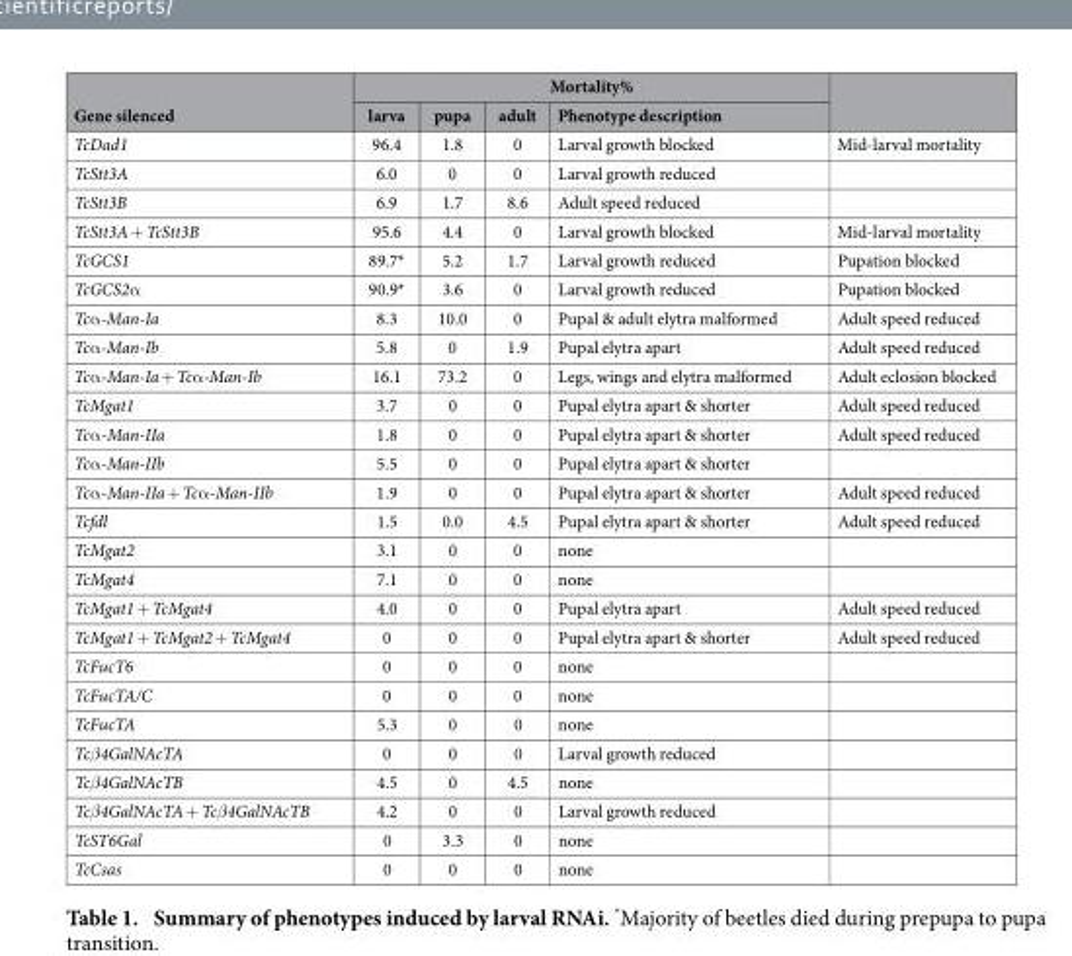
<table><thead><tr><td rowspan="2">Gene silenced</td><td colspan="4">Mortality%</td><td rowspan="2"></td></tr><tr><td>larva</td><td>pupa</td><td>adult</td><td>Phenotype description</td></tr></thead><tbody><tr><td>TcDad1</td><td>96.4</td><td>1.8</td><td>0</td><td>Larval growth blocked</td><td>Mid-larval mortality</td></tr><tr><td>TcStt3A</td><td>6.0</td><td>0</td><td>0</td><td>Larval growth reduced</td><td></td></tr><tr><td>TcStt3B</td><td>6.9</td><td>1.7</td><td>8.6</td><td>Adult speed reduced</td><td></td></tr><tr><td>TcStt3A + TcStt3B</td><td>95.6</td><td>4.4</td><td>0</td><td>Larval growth blocked</td><td>Mid-larval mortality</td></tr><tr><td>TcGCS1</td><td>89.7*</td><td>5.2</td><td>1.7</td><td>Larval growth reduced</td><td>Pupation blocked</td></tr><tr><td>TcGCS2α</td><td>90.9*</td><td>3.6</td><td>0</td><td>Larval growth reduced</td><td>Pupation blocked</td></tr><tr><td>Tcα -Man-Ia</td><td>8.3</td><td>10.0</td><td>0</td><td>Pupal &amp; adult elytra malformed</td><td>Adult speed reduced</td></tr><tr><td>Tcα -Man-Ib</td><td>5.8</td><td>0</td><td>1.9</td><td>Pupal elytra apart</td><td>Adult speed reduced</td></tr><tr><td>Tcα -Man-Ia + Tcα -Man-Ib</td><td>16.1</td><td>73.2</td><td>0</td><td>Legs, wings and elytra malformed</td><td>Adult eclosion blocked</td></tr><tr><td>TcMgat1</td><td>3.7</td><td>0</td><td>0</td><td>Pupal elytra apart &amp; shorter</td><td>Adult speed reduced</td></tr><tr><td>Tcα -Man-IIa</td><td>1.8</td><td>0</td><td>0</td><td>Pupal elytra apart &amp; shorter</td><td>Adult speed reduced</td></tr><tr><td>Tcα -Man-IIb</td><td>5.5</td><td>0</td><td>0</td><td>Pupal elytra apart &amp; shorter</td><td></td></tr><tr><td>Tcα -Man-IIa + Tcα -Man-IIb</td><td>1.9</td><td>0</td><td>0</td><td>Pupal elytra apart &amp; shorter</td><td>Adult speed reduced</td></tr><tr><td>Tcfdl</td><td>1.5</td><td>0.0</td><td>4.5</td><td>Pupal elytra apart &amp; shorter</td><td>Adult speed reduced</td></tr><tr><td>TcMgat2</td><td>3.1</td><td>0</td><td>0</td><td>none</td><td></td></tr><tr><td>TcMgat4</td><td>7.1</td><td>0</td><td>0</td><td>none</td><td></td></tr><tr><td>TcMgat1 + TcMgat4</td><td>4.0</td><td>0</td><td>0</td><td>Pupal elytra apart</td><td>Adult speed reduced</td></tr><tr><td>TcMgat1 + TcMgat2 + TcMgat4</td><td>0</td><td>0</td><td>0</td><td>Pupal elytra apart &amp; shorter</td><td>Adult speed reduced</td></tr><tr><td>TcFucT6</td><td>0</td><td>0</td><td>0</td><td>none</td><td></td></tr><tr><td>TcFucTA/C</td><td>0</td><td>0</td><td>0</td><td>none</td><td></td></tr><tr><td>TcFucTA</td><td>5.3</td><td>0</td><td>0</td><td>none</td><td></td></tr><tr><td>Tcβ4GalNAcTA</td><td>0</td><td>0</td><td>0</td><td>Larval growth reduced</td><td></td></tr><tr><td>Tcβ4GalNAcTB</td><td>4.5</td><td>0</td><td>4.5</td><td>none</td><td></td></tr><tr><td>Tcβ4GalNAcTA + Tcβ4GalNAcTB</td><td>4.2</td><td>0</td><td>0</td><td>Larval growth reduced</td><td></td></tr><tr><td>TcST6Gal</td><td>0</td><td>3.3</td><td>0</td><td>none</td><td></td></tr><tr><td>TcCsas</td><td>0</td><td>0</td><td>0</td><td>none</td><td></td></tr></tbody></table>